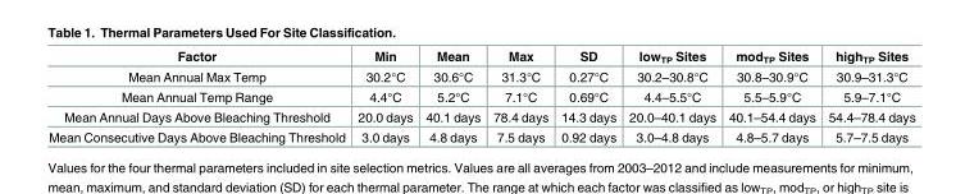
<table><thead><tr><td>Factor</td><td>Min</td><td>Mean</td><td>Max</td><td>SD</td><td>low<sub>TP</sub> Sites</td><td>mod<sub>TP</sub> Sites</td><td>high<sub>TP</sub> Sites</td></tr></thead><tbody><tr><td>Mean Annual Max Temp</td><td>30.2°C</td><td>30.6°C</td><td>31.3°C</td><td>0.27°C</td><td>30.2–30.8°C</td><td>30.8–30.9°C</td><td>30.9–31.3°C</td></tr><tr><td>Mean Annual Temp Range</td><td>4.4°C</td><td>5.2°C</td><td>7.1°C</td><td>0.69°C</td><td>4.4–5.5°C</td><td>5.5–5.9°C</td><td>5.9–7.1°C</td></tr><tr><td>Mean Annual Days Above Bleaching Threshold</td><td>20.0 days</td><td>40.1 days</td><td>78.4 days</td><td>14.3 days</td><td>20.0–40.1 days</td><td>40.1–54.4 days</td><td>54.4–78.4 days</td></tr><tr><td>Mean Consecutive Days Above Bleaching Threshold</td><td>3.0 days</td><td>4.8 days</td><td>7.5 days</td><td>0.92 days</td><td>3.0–4.8 days</td><td>4.8–5.7 days</td><td>5.7–7.5 days</td></tr></tbody></table>